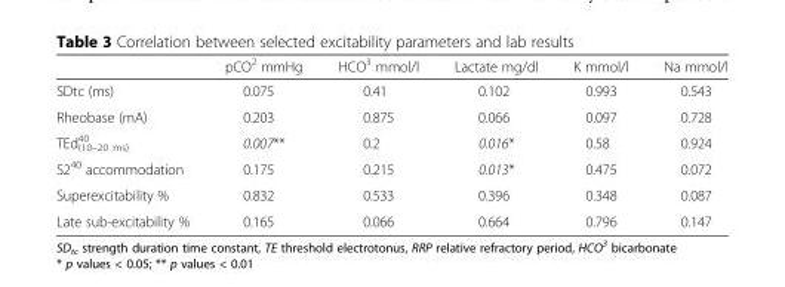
<table><thead><tr><td></td><td>pCO<sup>2</sup> mmHg</td><td>HCO<sup>3</sup> mmol/l</td><td>Lactate mg/dl</td><td>K mmol/l</td><td>Na mmol/l</td></tr></thead><tbody><tr><td>SDtc (ms)</td><td>0.075</td><td>0.41</td><td>0.102</td><td>0.993</td><td>0.543</td></tr><tr><td>Rheobase (mA)</td><td>0.203</td><td>0.875</td><td>0.066</td><td>0.097</td><td>0.728</td></tr><tr><td>TEd<sup>40</sup> <sub>(10–20 ms)</sub></td><td>0.007**</td><td>0.2</td><td>0.016*</td><td>0.58</td><td>0.924</td></tr><tr><td>S2<sup>40</sup> accommodation</td><td>0.175</td><td>0.215</td><td>0.013*</td><td>0.475</td><td>0.072</td></tr><tr><td>Superexcitability %</td><td>0.832</td><td>0.533</td><td>0.396</td><td>0.348</td><td>0.087</td></tr><tr><td>Late sub-excitability %</td><td>0.165</td><td>0.066</td><td>0.664</td><td>0.796</td><td>0.147</td></tr></tbody></table>